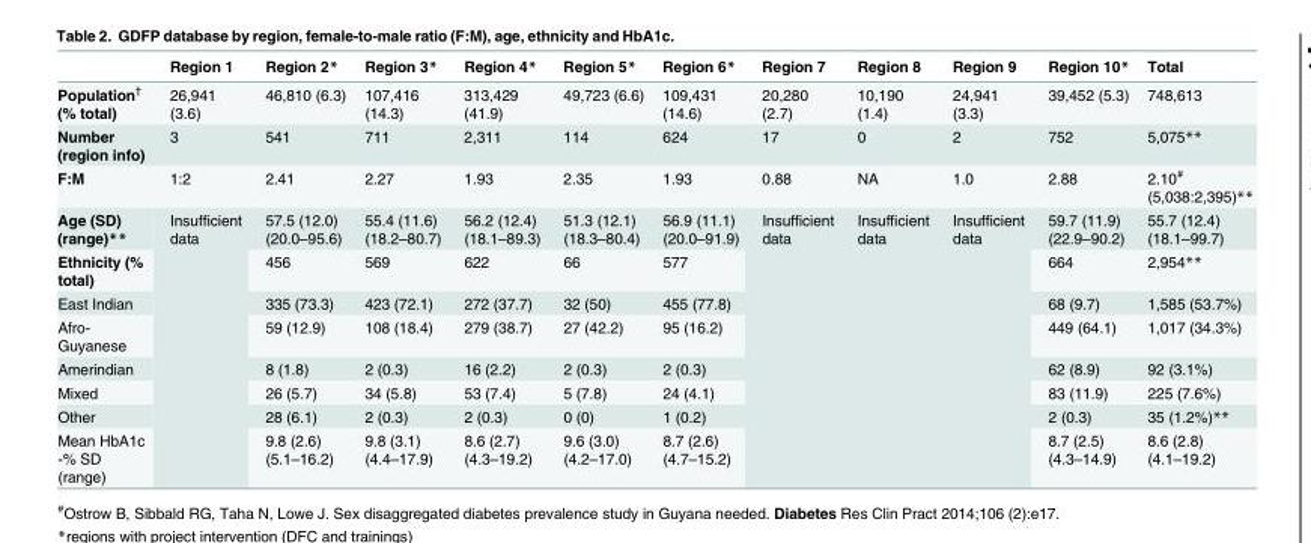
<table><thead><tr><td></td><td>Region 1</td><td>Region 2*</td><td>Region 3*</td><td>Region 4*</td><td>Region 5*</td><td>Region 6*</td><td>Region 7</td><td>Region 8</td><td>Region 9</td><td>Region 10*</td><td>Total</td></tr></thead><tbody><tr><td>Population<sup>†</sup> (% total)</td><td>26,941 (3.6)</td><td>46,810 (6.3)</td><td>107,416 (14.3)</td><td>313,429 (41.9)</td><td>49,723 (6.6)</td><td>109,431 (14.6)</td><td>20,280 (2.7)</td><td>10,190 (1.4)</td><td>24,941 (3.3)</td><td>39,452 (5.3)</td><td>748,613</td></tr><tr><td>Number (region info)</td><td>3</td><td>541</td><td>711</td><td>2,311</td><td>114</td><td>624</td><td>17</td><td>0</td><td>2</td><td>752</td><td>5,075**</td></tr><tr><td>F:M</td><td>1:2</td><td>2.41</td><td>2.27</td><td>1.93</td><td>2.35</td><td>1.93</td><td>0.88</td><td>NA</td><td>1.0</td><td>2.88</td><td>2.10<sup>#</sup> (5,038:2,395)**</td></tr><tr><td>Age (SD) (range)**</td><td rowspan="8">Insufficient data</td><td>57.5 (12.0) (20.0–95.6)</td><td>55.4 (11.6) (18.2–80.7)</td><td>56.2 (12.4) (18.1–89.3)</td><td>51.3 (12.1) (18.3–80.4)</td><td>56.9 (11.1) (20.0–91.9)</td><td rowspan="8">Insufficient data</td><td rowspan="8">Insufficient data</td><td rowspan="8">Insufficient data</td><td>59.7 (11.9) (22.9–90.2)</td><td>55.7 (12.4) (18.1–99.7)</td></tr><tr><td>Ethnicity (% total)</td><td>456</td><td>569</td><td>622</td><td>66</td><td>577</td><td>664</td><td>2,954**</td></tr><tr><td>East Indian</td><td>335 (73.3)</td><td>423 (72.1)</td><td>272 (37.7)</td><td>32 (50)</td><td>455 (77.8)</td><td>68 (9.7)</td><td>1,585 (53.7%)</td></tr><tr><td>Afro- Guyanese</td><td>59 (12.9)</td><td>108 (18.4)</td><td>279 (38.7)</td><td>27 (42.2)</td><td>95 (16.2)</td><td>449 (64.1)</td><td>1,017 (34.3%)</td></tr><tr><td>Amerindian</td><td>8 (1.8)</td><td>2 (0.3)</td><td>16 (2.2)</td><td>2 (0.3)</td><td>2 (0.3)</td><td>62 (8.9)</td><td>92 (3.1%)</td></tr><tr><td>Mixed</td><td>26 (5.7)</td><td>34 (5.8)</td><td>53 (7.4)</td><td>5 (7.8)</td><td>24 (4.1)</td><td>83 (11.9)</td><td>225 (7.6%)</td></tr><tr><td>Other</td><td>28 (6.1)</td><td>2 (0.3)</td><td>2 (0.3)</td><td>0 (0)</td><td>1 (0.2)</td><td>2 (0.3)</td><td>35 (1.2%)**</td></tr><tr><td>Mean HbA1c -% SD (range)</td><td>9.8 (2.6) (5.1–16.2)</td><td>9.8 (3.1) (4.4–17.9)</td><td>8.6 (2.7) (4.3–19.2)</td><td>9.6 (3.0) (4.2–17.0)</td><td>8.7 (2.6) (4.7–15.2)</td><td>8.7 (2.5) (4.3–14.9)</td><td>8.6 (2.8) (4.1–19.2)</td></tr></tbody></table>